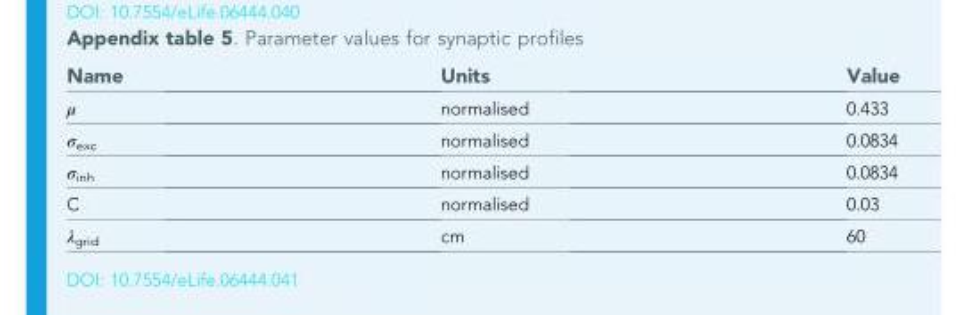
<table><thead><tr><td>Name</td><td>Units</td><td>Value</td></tr></thead><tbody><tr><td>μ</td><td>normalised</td><td>0.433</td></tr><tr><td>σ<sub>exc</sub></td><td>normalised</td><td>0.0834</td></tr><tr><td>σ<sub>inh</sub></td><td>normalised</td><td>0.0834</td></tr><tr><td>C</td><td>normalised</td><td>0.03</td></tr><tr><td>λ<sub>grid</sub></td><td>cm</td><td>60</td></tr></tbody></table>